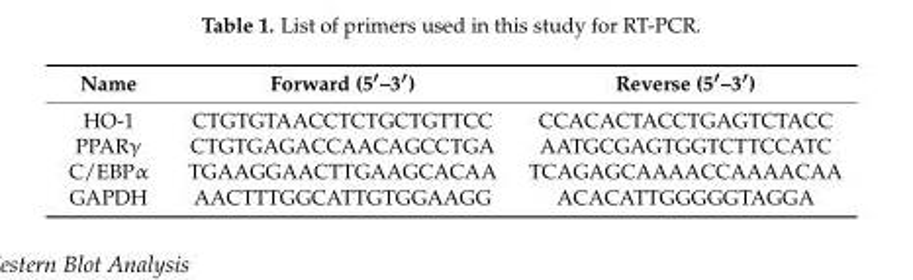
<table><thead><tr><td>Name</td><td>Forward (5′–3′)</td><td>Reverse (5′–3′)</td></tr></thead><tbody><tr><td>HO-1</td><td>CTGTGTAACCTCTGCTGTTCC</td><td>CCACACTACCTGAGTCTACC</td></tr><tr><td>PPARγ</td><td>CTGTGAGACCAACAGCCTGA</td><td>AATGCGAGTGGTCTTCCATC</td></tr><tr><td>C/EBPα</td><td>TGAAGGAACTTGAAGCACAA</td><td>TCAGAGCAAAACCAAAACAA</td></tr><tr><td>GAPDH</td><td>AACTTTGGCATTGTGGAAGG</td><td>ACACATTGGGGGTAGGA</td></tr></tbody></table>